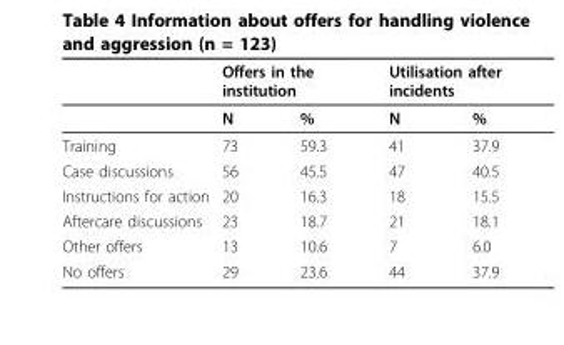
<table><thead><tr><td rowspan="2"></td><td colspan="2">Offers in the institution</td><td colspan="2">Utilisation after incidents</td></tr><tr><td>N</td><td>%</td><td>N</td><td>%</td></tr></thead><tbody><tr><td>Training</td><td>73</td><td>59.3</td><td>41</td><td>37.9</td></tr><tr><td>Case discussions</td><td>56</td><td>45.5</td><td>47</td><td>40.5</td></tr><tr><td>Instructions for action</td><td>20</td><td>16.3</td><td>18</td><td>15.5</td></tr><tr><td>Aftercare discussions</td><td>23</td><td>18.7</td><td>21</td><td>18.1</td></tr><tr><td>Other offers</td><td>13</td><td>10.6</td><td>7</td><td>6.0</td></tr><tr><td>No offers</td><td>29</td><td>23.6</td><td>44</td><td>37.9</td></tr></tbody></table>